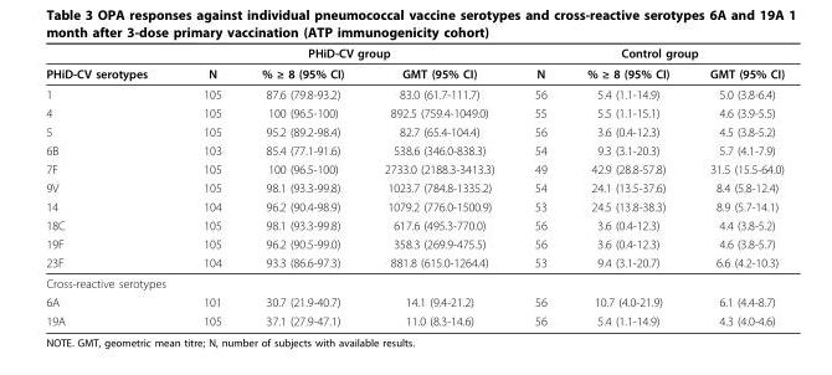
<table><thead><tr><td rowspan="2">PHiD-CV serotypes</td><td colspan="3">PHiD-CV group</td><td colspan="3">Control group</td></tr><tr><td>N</td><td>% ≥ 8 (95% CI)</td><td>GMT (95% CI)</td><td>N</td><td>% ≥ 8 (95% CI)</td><td>GMT (95% CI)</td></tr></thead><tbody><tr><td>1</td><td>105</td><td>87.6 (79.8-93.2)</td><td>83.0 (61.7-111.7)</td><td>56</td><td>5.4 (1.1-14.9)</td><td>5.0 (3.8-6.4)</td></tr><tr><td>4</td><td>105</td><td>100 (96.5-100)</td><td>892.5 (759.4-1049.0)</td><td>55</td><td>5.5 (1.1-15.1)</td><td>4.6 (3.9-5.5)</td></tr><tr><td>5</td><td>105</td><td>95.2 (89.2-98.4)</td><td>82.7 (65.4-104.4)</td><td>56</td><td>3.6 (0.4-12.3)</td><td>4.5 (3.8-5.2)</td></tr><tr><td>6B</td><td>103</td><td>85.4 (77.1-91.6)</td><td>538.6 (346.0-838.3)</td><td>54</td><td>9.3 (3.1-20.3)</td><td>5.7 (4.1-7.9)</td></tr><tr><td>7F</td><td>105</td><td>100 (96.5-100)</td><td>2733.0 (2188.3-3413.3)</td><td>49</td><td>42.9 (28.8-57.8)</td><td>31.5 (15.5-64.0)</td></tr><tr><td>9V</td><td>105</td><td>98.1 (93.3-99.8)</td><td>1023.7 (784.8-1335.2)</td><td>54</td><td>24.1 (13.5-37.6)</td><td>8.4 (5.8-12.4)</td></tr><tr><td>14</td><td>104</td><td>96.2 (90.4-98.9)</td><td>1079.2 (776.0-1500.9)</td><td>53</td><td>24.5 (13.8-38.3)</td><td>8.9 (5.7-14.1)</td></tr><tr><td>18C</td><td>105</td><td>98.1 (93.3-99.8)</td><td>617.6 (495.3-770.0)</td><td>56</td><td>3.6 (0.4-12.3)</td><td>4.4 (3.8-5.2)</td></tr><tr><td>19F</td><td>105</td><td>96.2 (90.5-99.0)</td><td>358.3 (269.9-475.5)</td><td>56</td><td>3.6 (0.4-12.3)</td><td>4.6 (3.8-5.7)</td></tr><tr><td>23F</td><td>104</td><td>93.3 (86.6-97.3)</td><td>881.8 (615.0-1264.4)</td><td>53</td><td>9.4 (3.1-20.7)</td><td>6.6 (4.2-10.3)</td></tr><tr><td colspan="7">Cross-reactive serotypes</td></tr><tr><td>6A</td><td>101</td><td>30.7 (21.9-40.7)</td><td>14.1 (9.4-21.2)</td><td>56</td><td>10.7 (4.0-21.9)</td><td>6.1 (4.4-8.7)</td></tr><tr><td>19A</td><td>105</td><td>37.1 (27.9-47.1)</td><td>11.0 (8.3-14.6)</td><td>56</td><td>5.4 (1.1-14.9)</td><td>4.3 (4.0-4.6)</td></tr></tbody></table>